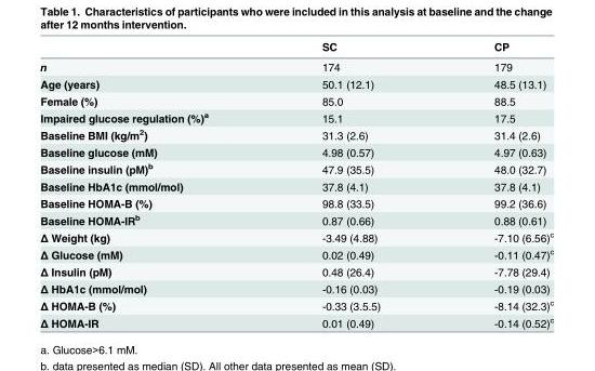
<table><thead><tr><td></td><td>SC</td><td>CP</td></tr></thead><tbody><tr><td>n</td><td>174</td><td>179</td></tr><tr><td>Age (years)</td><td>50.1 (12.1)</td><td>48.5 (13.1)</td></tr><tr><td>Female (%)</td><td>85.0</td><td>88.5</td></tr><tr><td>Impaired glucose regulation (%)<sup>a</sup></td><td>15.1</td><td>17.5</td></tr><tr><td>Baseline BMI (kg/m<sup>2</sup>)</td><td>31.3 (2.6)</td><td>31.4 (2.6)</td></tr><tr><td>Baseline glucose (mM)</td><td>4.98 (0.57)</td><td>4.97 (0.63)</td></tr><tr><td>Baseline insulin (pM)<sup>b</sup></td><td>47.9 (35.5)</td><td>48.0 (32.7)</td></tr><tr><td>Baseline HbA1c (mmol/mol)</td><td>37.8 (4.1)</td><td>37.8 (4.1)</td></tr><tr><td>Baseline HOMA-B (%)</td><td>98.8 (33.5)</td><td>99.2 (36.6)</td></tr><tr><td>Baseline HOMA-IR<sup>b</sup></td><td>0.87 (0.66)</td><td>0.88 (0.61)</td></tr><tr><td>Δ Weight (kg)</td><td>-3.49 (4.88)</td><td>-7.10 (6.56)<sup>c</sup></td></tr><tr><td>Δ Glucose (mM)</td><td>0.02 (0.49)</td><td>-0.11 (0.47)<sup>c</sup></td></tr><tr><td>Δ Insulin (pM)</td><td>0.48 (26.4)</td><td>-7.78 (29.4)</td></tr><tr><td>Δ HbA1c (mmol/mol)</td><td>-0.16 (0.03)</td><td>-0.19 (0.03)</td></tr><tr><td>Δ HOMA-B (%)</td><td>-0.33 (3.5.5)</td><td>-8.14 (32.3)<sup>c</sup></td></tr><tr><td>Δ HOMA-IR</td><td>0.01 (0.49)</td><td>-0.14 (0.52)<sup>c</sup></td></tr></tbody></table>